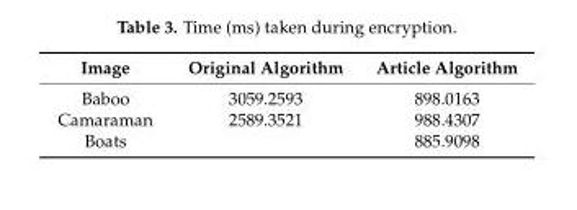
<table><thead><tr><td>Image</td><td>Original Algorithm</td><td>Article Algorithm</td></tr></thead><tbody><tr><td>Baboo</td><td>3059.2593</td><td>898.0163</td></tr><tr><td>Camaraman</td><td>2589.3521</td><td>988.4307</td></tr><tr><td>Boats</td><td></td><td>885.9098</td></tr></tbody></table>